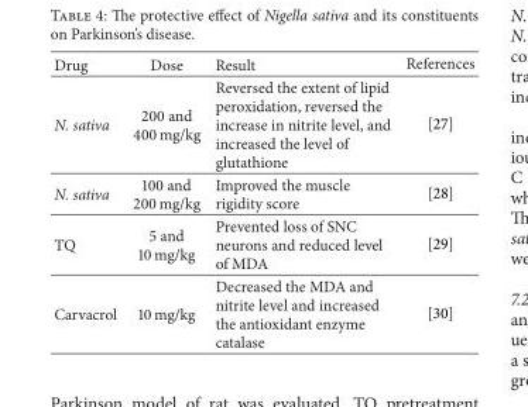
<table><thead><tr><td>Drug</td><td>Dose</td><td>Result</td><td>References</td></tr></thead><tbody><tr><td>N. sativa</td><td>200 and 400 mg/kg</td><td>Reversed the extent of lipid peroxidation, reversed the increase in nitrite level, and increased the level of glutathione</td><td>[27]</td></tr><tr><td>N. sativa</td><td>100 and 200 mg/kg</td><td>Improved the muscle rigidity score</td><td>[28]</td></tr><tr><td>TQ</td><td>5 and 10 mg/kg</td><td>Prevented loss of SNC neurons and reduced level of MDA</td><td>[29]</td></tr><tr><td>Carvacrol</td><td>10 mg/kg</td><td>Decreased the MDA and nitrite level and increased the antioxidant enzyme catalase</td><td>[30]</td></tr></tbody></table>